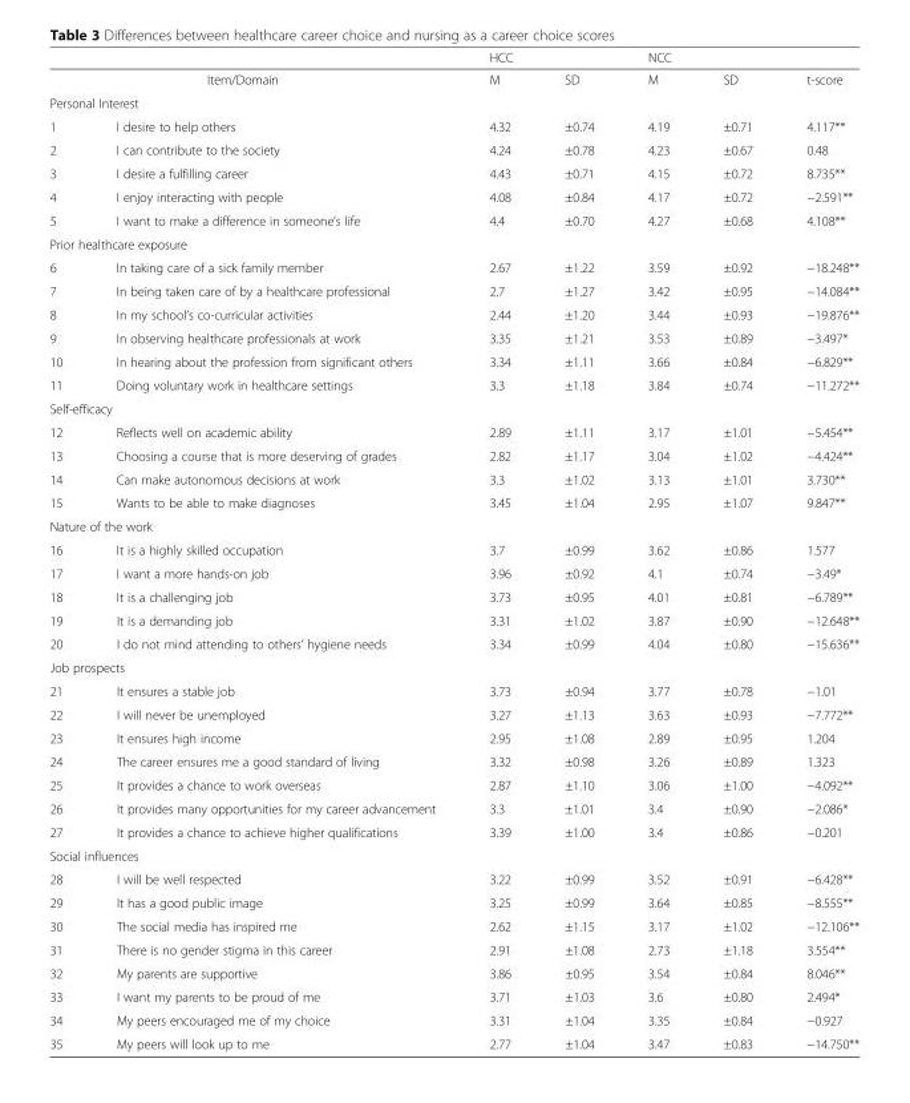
<table><thead><tr><td></td><td></td><td colspan="2">HCC</td><td colspan="2">NCC</td><td rowspan="2">t-score</td></tr><tr><td colspan="2">Item/Domain</td><td>M</td><td>SD</td><td>M</td><td>SD</td></tr></thead><tbody><tr><td colspan="7">Personal Interest</td></tr><tr><td>1</td><td>I desire to help others</td><td>4.32</td><td>±0.74</td><td>4.19</td><td>±0.71</td><td>4.117**</td></tr><tr><td>2</td><td>I can contribute to the society</td><td>4.24</td><td>±0.78</td><td>4.23</td><td>±0.67</td><td>0.48</td></tr><tr><td>3</td><td>I desire a fulfilling career</td><td>4.43</td><td>±0.71</td><td>4.15</td><td>±0.72</td><td>8.735**</td></tr><tr><td>4</td><td>I enjoy interacting with people</td><td>4.08</td><td>±0.84</td><td>4.17</td><td>±0.72</td><td>−2.591**</td></tr><tr><td>5</td><td>I want to make a difference in someone’s life</td><td>4.4</td><td>±0.70</td><td>4.27</td><td>±0.68</td><td>4.108**</td></tr><tr><td colspan="7">Prior healthcare exposure</td></tr><tr><td>6</td><td>In taking care of a sick family member</td><td>2.67</td><td>±1.22</td><td>3.59</td><td>±0.92</td><td>−18.248**</td></tr><tr><td>7</td><td>In being taken care of by a healthcare professional</td><td>2.7</td><td>±1.27</td><td>3.42</td><td>±0.95</td><td>−14.084**</td></tr><tr><td>8</td><td>In my school’s co-curricular activities</td><td>2.44</td><td>±1.20</td><td>3.44</td><td>±0.93</td><td>−19.876**</td></tr><tr><td>9</td><td>In observing healthcare professionals at work</td><td>3.35</td><td>±1.21</td><td>3.53</td><td>±0.89</td><td>−3.497*</td></tr><tr><td>10</td><td>In hearing about the profession from significant others</td><td>3.34</td><td>±1.11</td><td>3.66</td><td>±0.84</td><td>−6.829**</td></tr><tr><td>11</td><td>Doing voluntary work in healthcare settings</td><td>3.3</td><td>±1.18</td><td>3.84</td><td>±0.74</td><td>−11.272**</td></tr><tr><td colspan="7">Self-efficacy</td></tr><tr><td>12</td><td>Reflects well on academic ability</td><td>2.89</td><td>±1.11</td><td>3.17</td><td>±1.01</td><td>−5.454**</td></tr><tr><td>13</td><td>Choosing a course that is more deserving of grades</td><td>2.82</td><td>±1.17</td><td>3.04</td><td>±1.02</td><td>−4.424**</td></tr><tr><td>14</td><td>Can make autonomous decisions at work</td><td>3.3</td><td>±1.02</td><td>3.13</td><td>±1.01</td><td>3.730**</td></tr><tr><td>15</td><td>Wants to be able to make diagnoses</td><td>3.45</td><td>±1.04</td><td>2.95</td><td>±1.07</td><td>9.847**</td></tr><tr><td colspan="7">Nature of the work</td></tr><tr><td>16</td><td>It is a highly skilled occupation</td><td>3.7</td><td>±0.99</td><td>3.62</td><td>±0.86</td><td>1.577</td></tr><tr><td>17</td><td>I want a more hands-on job</td><td>3.96</td><td>±0.92</td><td>4.1</td><td>±0.74</td><td>−3.49*</td></tr><tr><td>18</td><td>It is a challenging job</td><td>3.73</td><td>±0.95</td><td>4.01</td><td>±0.81</td><td>−6.789**</td></tr><tr><td>19</td><td>It is a demanding job</td><td>3.31</td><td>±1.02</td><td>3.87</td><td>±0.90</td><td>−12.648**</td></tr><tr><td>20</td><td>I do not mind attending to others’ hygiene needs</td><td>3.34</td><td>±0.99</td><td>4.04</td><td>±0.80</td><td>−15.636**</td></tr><tr><td colspan="7">Job prospects</td></tr><tr><td>21</td><td>It ensures a stable job</td><td>3.73</td><td>±0.94</td><td>3.77</td><td>±0.78</td><td>−1.01</td></tr><tr><td>22</td><td>I will never be unemployed</td><td>3.27</td><td>±1.13</td><td>3.63</td><td>±0.93</td><td>−7.772**</td></tr><tr><td>23</td><td>It ensures high income</td><td>2.95</td><td>±1.08</td><td>2.89</td><td>±0.95</td><td>1.204</td></tr><tr><td>24</td><td>The career ensures me a good standard of living</td><td>3.32</td><td>±0.98</td><td>3.26</td><td>±0.89</td><td>1.323</td></tr><tr><td>25</td><td>It provides a chance to work overseas</td><td>2.87</td><td>±1.10</td><td>3.06</td><td>±1.00</td><td>−4.092**</td></tr><tr><td>26</td><td>It provides many opportunities for my career advancement</td><td>3.3</td><td>±1.01</td><td>3.4</td><td>±0.90</td><td>−2.086*</td></tr><tr><td>27</td><td>It provides a chance to achieve higher qualifications</td><td>3.39</td><td>±1.00</td><td>3.4</td><td>±0.86</td><td>−0.201</td></tr><tr><td colspan="7">Social influences</td></tr><tr><td>28</td><td>I will be well respected</td><td>3.22</td><td>±0.99</td><td>3.52</td><td>±0.91</td><td>−6.428**</td></tr><tr><td>29</td><td>It has a good public image</td><td>3.25</td><td>±0.99</td><td>3.64</td><td>±0.85</td><td>−8.555**</td></tr><tr><td>30</td><td>The social media has inspired me</td><td>2.62</td><td>±1.15</td><td>3.17</td><td>±1.02</td><td>−12.106**</td></tr><tr><td>31</td><td>There is no gender stigma in this career</td><td>2.91</td><td>±1.08</td><td>2.73</td><td>±1.18</td><td>3.554**</td></tr><tr><td>32</td><td>My parents are supportive</td><td>3.86</td><td>±0.95</td><td>3.54</td><td>±0.84</td><td>8.046**</td></tr><tr><td>33</td><td>I want my parents to be proud of me</td><td>3.71</td><td>±1.03</td><td>3.6</td><td>±0.80</td><td>2.494*</td></tr><tr><td>34</td><td>My peers encouraged me of my choice</td><td>3.31</td><td>±1.04</td><td>3.35</td><td>±0.84</td><td>−0.927</td></tr><tr><td>35</td><td>My peers will look up to me</td><td>2.77</td><td>±1.04</td><td>3.47</td><td>±0.83</td><td>−14.750**</td></tr></tbody></table>